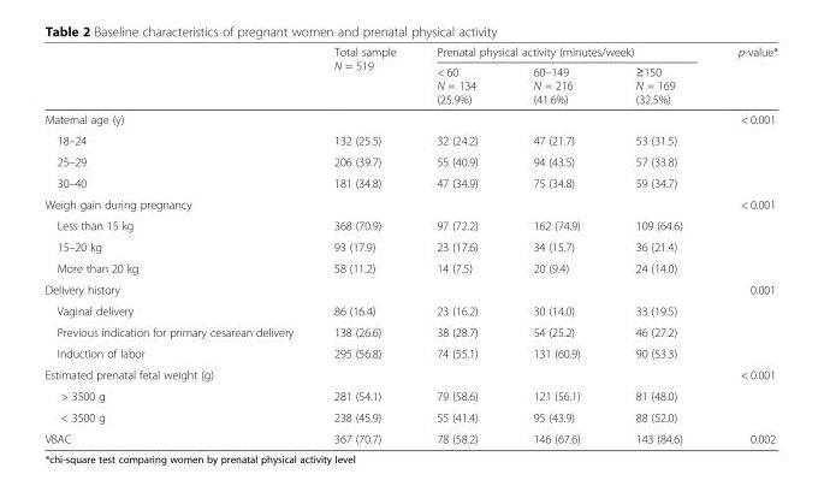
<table><thead><tr><td rowspan="2"></td><td rowspan="2">Total sample N = 519</td><td colspan="3">Prenatal physical activity (minutes/week)</td><td rowspan="2">p-value*</td></tr><tr><td>&lt; 60 N = 134 (25.9%)</td><td>60–149 N = 216 (41.6%)</td><td>≥150 N = 169 (32.5%)</td></tr></thead><tbody><tr><td colspan="5">Maternal age (y)</td><td>&lt; 0.001</td></tr><tr><td>18–24</td><td>132 (25.5)</td><td>32 (24.2)</td><td>47 (21.7)</td><td>53 (31.5)</td><td></td></tr><tr><td>25–29</td><td>206 (39.7)</td><td>55 (40.9)</td><td>94 (43.5)</td><td>57 (33.8)</td><td></td></tr><tr><td>30–40</td><td>181 (34.8)</td><td>47 (34.9)</td><td>75 (34.8)</td><td>59 (34.7)</td><td></td></tr><tr><td colspan="5">Weigh gain during pregnancy</td><td>&lt; 0.001</td></tr><tr><td>Less than 15 kg</td><td>368 (70.9)</td><td>97 (72.2)</td><td>162 (74.9)</td><td>109 (64.6)</td><td></td></tr><tr><td>15–20 kg</td><td>93 (17.9)</td><td>23 (17.6)</td><td>34 (15.7)</td><td>36 (21.4)</td><td></td></tr><tr><td>More than 20 kg</td><td>58 (11.2)</td><td>14 (7.5)</td><td>20 (9.4)</td><td>24 (14.0)</td><td></td></tr><tr><td colspan="5">Delivery history</td><td>0.001</td></tr><tr><td>Vaginal delivery</td><td>86 (16.4)</td><td>23 (16.2)</td><td>30 (14.0)</td><td>33 (19.5)</td><td></td></tr><tr><td>Previous indication for primary cesarean delivery</td><td>138 (26.6)</td><td>38 (28.7)</td><td>54 (25.2)</td><td>46 (27.2)</td><td></td></tr><tr><td>Induction of labor</td><td>295 (56.8)</td><td>74 (55.1)</td><td>131 (60.9)</td><td>90 (53.3)</td><td></td></tr><tr><td colspan="5">Estimated prenatal fetal weight (g)</td><td>&lt; 0.001</td></tr><tr><td>&gt; 3500 g</td><td>281 (54.1)</td><td>79 (58.6)</td><td>121 (56.1)</td><td>81 (48.0)</td><td></td></tr><tr><td>&lt; 3500 g</td><td>238 (45.9)</td><td>55 (41.4)</td><td>95 (43.9)</td><td>88 (52.0)</td><td></td></tr><tr><td>VBAC</td><td>367 (70.7)</td><td>78 (58.2)</td><td>146 (67.6)</td><td>143 (84.6)</td><td>0.002</td></tr></tbody></table>